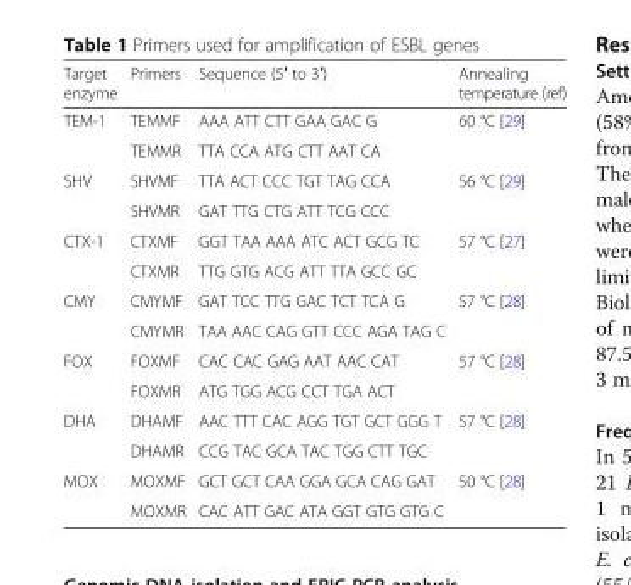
<table><thead><tr><td>Target enzyme</td><td>Primers</td><td>Sequence (5′ to 3′)</td><td>Annealing temperature (ref)</td></tr></thead><tbody><tr><td rowspan="2">TEM-1</td><td>TEMMF</td><td>AAA ATT CTT GAA GAC G</td><td rowspan="2">60 °C [29]</td></tr><tr><td>TEMMR</td><td>TTA CCA ATG CTT AAT CA</td></tr><tr><td rowspan="2">SHV</td><td>SHVMF</td><td>TTA ACT CCC TGT TAG CCA</td><td rowspan="2">56 °C [29]</td></tr><tr><td>SHVMR</td><td>GAT TTG CTG ATT TCG CCC</td></tr><tr><td rowspan="2">CTX-1</td><td>CTXMF</td><td>GGT TAA AAA ATC ACT GCG TC</td><td rowspan="2">57 °C [27]</td></tr><tr><td>CTXMR</td><td>TTG GTG ACG ATT TTA GCC GC</td></tr><tr><td rowspan="2">CMY</td><td>CMYMF</td><td>GAT TCC TTG GAC TCT TCA G</td><td rowspan="2">57 °C [28]</td></tr><tr><td>CMYMR</td><td>TAA AAC CAG GTT CCC AGA TAG C</td></tr><tr><td rowspan="2">FOX</td><td>FOXMF</td><td>CAC CAC GAG AAT AAC CAT</td><td rowspan="2">57 °C [28]</td></tr><tr><td>FOXMR</td><td>ATG TGG ACG CCT TGA ACT</td></tr><tr><td rowspan="2">DHA</td><td>DHAMF</td><td>AAC TTT CAC AGG TGT GCT GGG T</td><td rowspan="2">57 °C [28]</td></tr><tr><td>DHAMR</td><td>CCG TAC GCA TAC TGG CTT TGC</td></tr><tr><td rowspan="2">MOX</td><td>MOXMF</td><td>GCT GCT CAA GGA GCA CAG GAT</td><td rowspan="2">50 °C [28]</td></tr><tr><td>MOXMR</td><td>CAC ATT GAC ATA GGT GTG GTG C</td></tr></tbody></table>